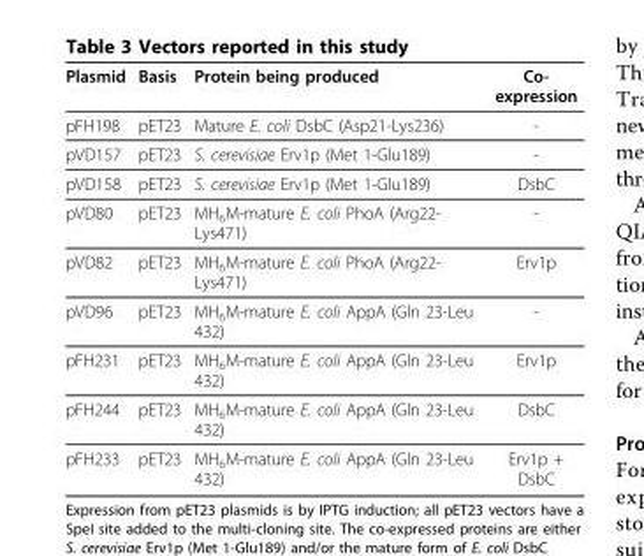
<table><thead><tr><td>Plasmid</td><td>Basis</td><td>Protein being produced</td><td>Co- expression</td></tr></thead><tbody><tr><td>pFH198</td><td>pET23</td><td>Mature E. coli DsbC (Asp21-Lys236)</td><td>-</td></tr><tr><td>pVD157</td><td>pET23</td><td>S. cerevisiae Erv1p (Met 1-Glu189)</td><td>-</td></tr><tr><td>pVD158</td><td>pET23</td><td>S. cerevisiae Erv1p (Met 1-Glu189)</td><td>DsbC</td></tr><tr><td>pVD80</td><td>pET23</td><td>MH<sub>6</sub>M-mature E. coli PhoA (Arg22- Lys471)</td><td>-</td></tr><tr><td>pVD82</td><td>pET23</td><td>MH<sub>6</sub>M-mature E. coli PhoA (Arg22- Lys471)</td><td>Erv1p</td></tr><tr><td>pVD96</td><td>pET23</td><td>MH<sub>6</sub>M-mature E. coli AppA (Gln 23-Leu 432)</td><td>-</td></tr><tr><td>pFH231</td><td>pET23</td><td>MH<sub>6</sub>M-mature E. coli AppA (Gln 23-Leu 432)</td><td>Erv1p</td></tr><tr><td>pFH244</td><td>pET23</td><td>MH<sub>6</sub>M-mature E. coli AppA (Gln 23-Leu 432)</td><td>DsbC</td></tr><tr><td>pFH233</td><td>pET23</td><td>MH<sub>6</sub>M-mature E. coli AppA (Gln 23-Leu 432)</td><td>Erv1p + DsbC</td></tr></tbody></table>